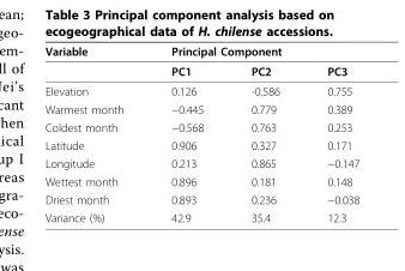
<table><thead><tr><td rowspan="2">Variable</td><td colspan="3">Principal Component</td></tr><tr><td>PC1</td><td>PC2</td><td>PC3</td></tr></thead><tbody><tr><td>Elevation</td><td>0.126</td><td>-0.586</td><td>0.755</td></tr><tr><td>Warmest month</td><td>−0.445</td><td>0.779</td><td>0.389</td></tr><tr><td>Coldest month</td><td>−0.568</td><td>0.763</td><td>0.253</td></tr><tr><td>Latitude</td><td>0.906</td><td>0.327</td><td>0.171</td></tr><tr><td>Longitude</td><td>0.213</td><td>0.865</td><td>−0.147</td></tr><tr><td>Wettest month</td><td>0.896</td><td>0.181</td><td>0.148</td></tr><tr><td>Driest month</td><td>0.893</td><td>0.236</td><td>−0.038</td></tr><tr><td>Variance (%)</td><td>42.9</td><td>35.4</td><td>12.3</td></tr></tbody></table>